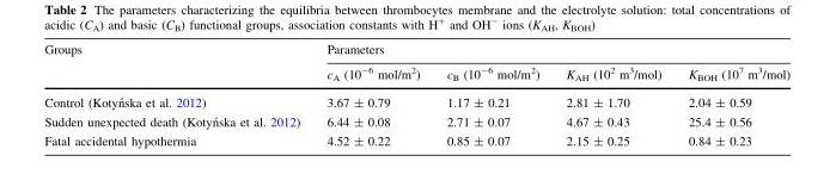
<table><thead><tr><td rowspan="2">Groups</td><td colspan="4">Parameters</td></tr><tr><td>c<sub>A</sub> (10<sup>-6</sup> mol/m<sup>2</sup>)</td><td>c<sub>B</sub> (10<sup>-6</sup> mol/m<sup>2</sup>)</td><td>K<sub>AH</sub> (10<sup>2</sup> m<sup>3</sup>/mol)</td><td>K<sub>BOH</sub> (10<sup>7</sup> m<sup>3</sup>/mol)</td></tr></thead><tbody><tr><td>Control (Kotyn´ska et al. 2012)</td><td>3.67 ± 0.79</td><td>1.17 ± 0.21</td><td>2.81 ± 1.70</td><td>2.04 ± 0.59</td></tr><tr><td>Sudden unexpected death (Kotyn´ska et al. 2012)</td><td>6.44 ± 0.08</td><td>2.71 ± 0.07</td><td>4.67 ± 0.43</td><td>25.4 ± 0.56</td></tr><tr><td>Fatal accidental hypothermia</td><td>4.52 ± 0.22</td><td>0.85 ± 0.07</td><td>2.15 ± 0.25</td><td>0.84 ± 0.23</td></tr></tbody></table>